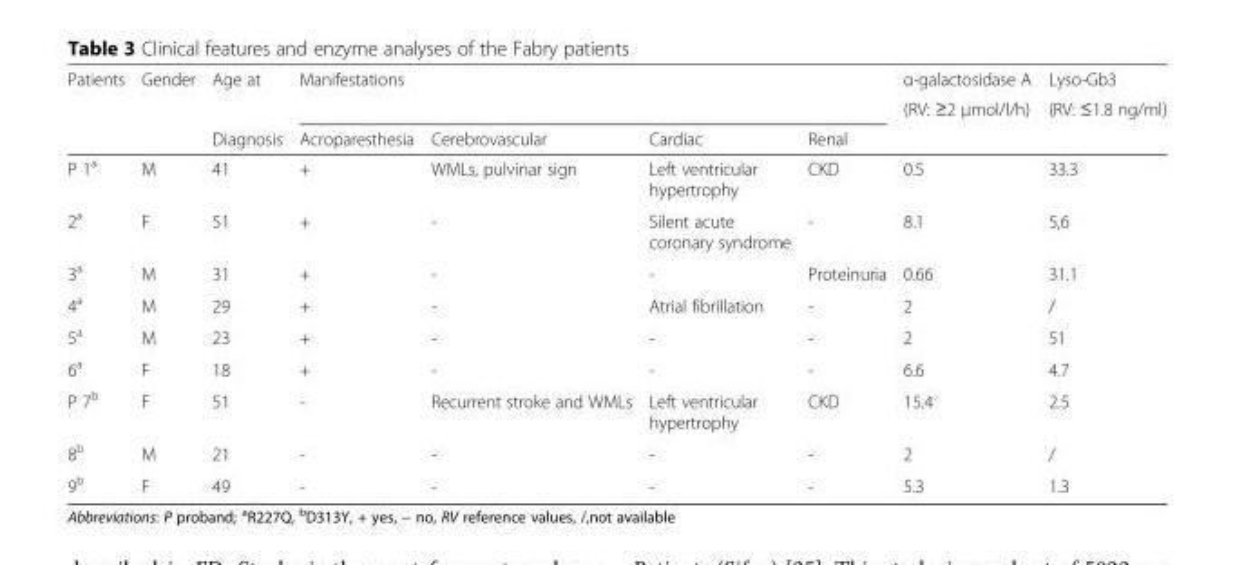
<table><thead><tr><td rowspan="3">Patients</td><td rowspan="3">Gender</td><td rowspan="3">Age at Diagnosis</td><td rowspan="2" colspan="4">Manifestations</td><td rowspan="3">α-galactosidase A (RV: ≥2 μmol/l/h)</td><td rowspan="3">Lyso-Gb3 (RV: ≤1.8 ng/ml)</td></tr><tr></tr><tr><td>Acroparesthesia</td><td>Cerebrovascular</td><td>Cardiac</td><td>Renal</td></tr></thead><tbody><tr><td>P 1<sup>a</sup></td><td>M</td><td>41</td><td>+</td><td>WMLs, pulvinar sign</td><td>Left ventricular hypertrophy</td><td>CKD</td><td>0.5</td><td>33.3</td></tr><tr><td>2<sup>a</sup></td><td>F</td><td>51</td><td>+</td><td>-</td><td>Silent acute coronary syndrome</td><td>-</td><td>8.1</td><td>5,6</td></tr><tr><td>3<sup>a</sup></td><td>M</td><td>31</td><td>+</td><td>-</td><td>-</td><td>Proteinuria</td><td>0.66</td><td>31.1</td></tr><tr><td>4<sup>a</sup></td><td>M</td><td>29</td><td>+</td><td>-</td><td>Atrial fibrillation</td><td>-</td><td>2</td><td>/</td></tr><tr><td>5<sup>a</sup></td><td>M</td><td>23</td><td>+</td><td>-</td><td>-</td><td>-</td><td>2</td><td>51</td></tr><tr><td>6<sup>a</sup></td><td>F</td><td>18</td><td>+</td><td>-</td><td>-</td><td>-</td><td>6.6</td><td>4.7</td></tr><tr><td>P 7<sup>b</sup></td><td>F</td><td>51</td><td>-</td><td>Recurrent stroke and WMLs</td><td>Left ventricular hypertrophy</td><td>CKD</td><td>15.4</td><td>2.5</td></tr><tr><td>8<sup>b</sup></td><td>M</td><td>21</td><td>-</td><td>-</td><td>-</td><td>-</td><td>2</td><td>/</td></tr><tr><td>9<sup>b</sup></td><td>F</td><td>49</td><td>-</td><td>-</td><td>-</td><td>-</td><td>5.3</td><td>1.3</td></tr></tbody></table>